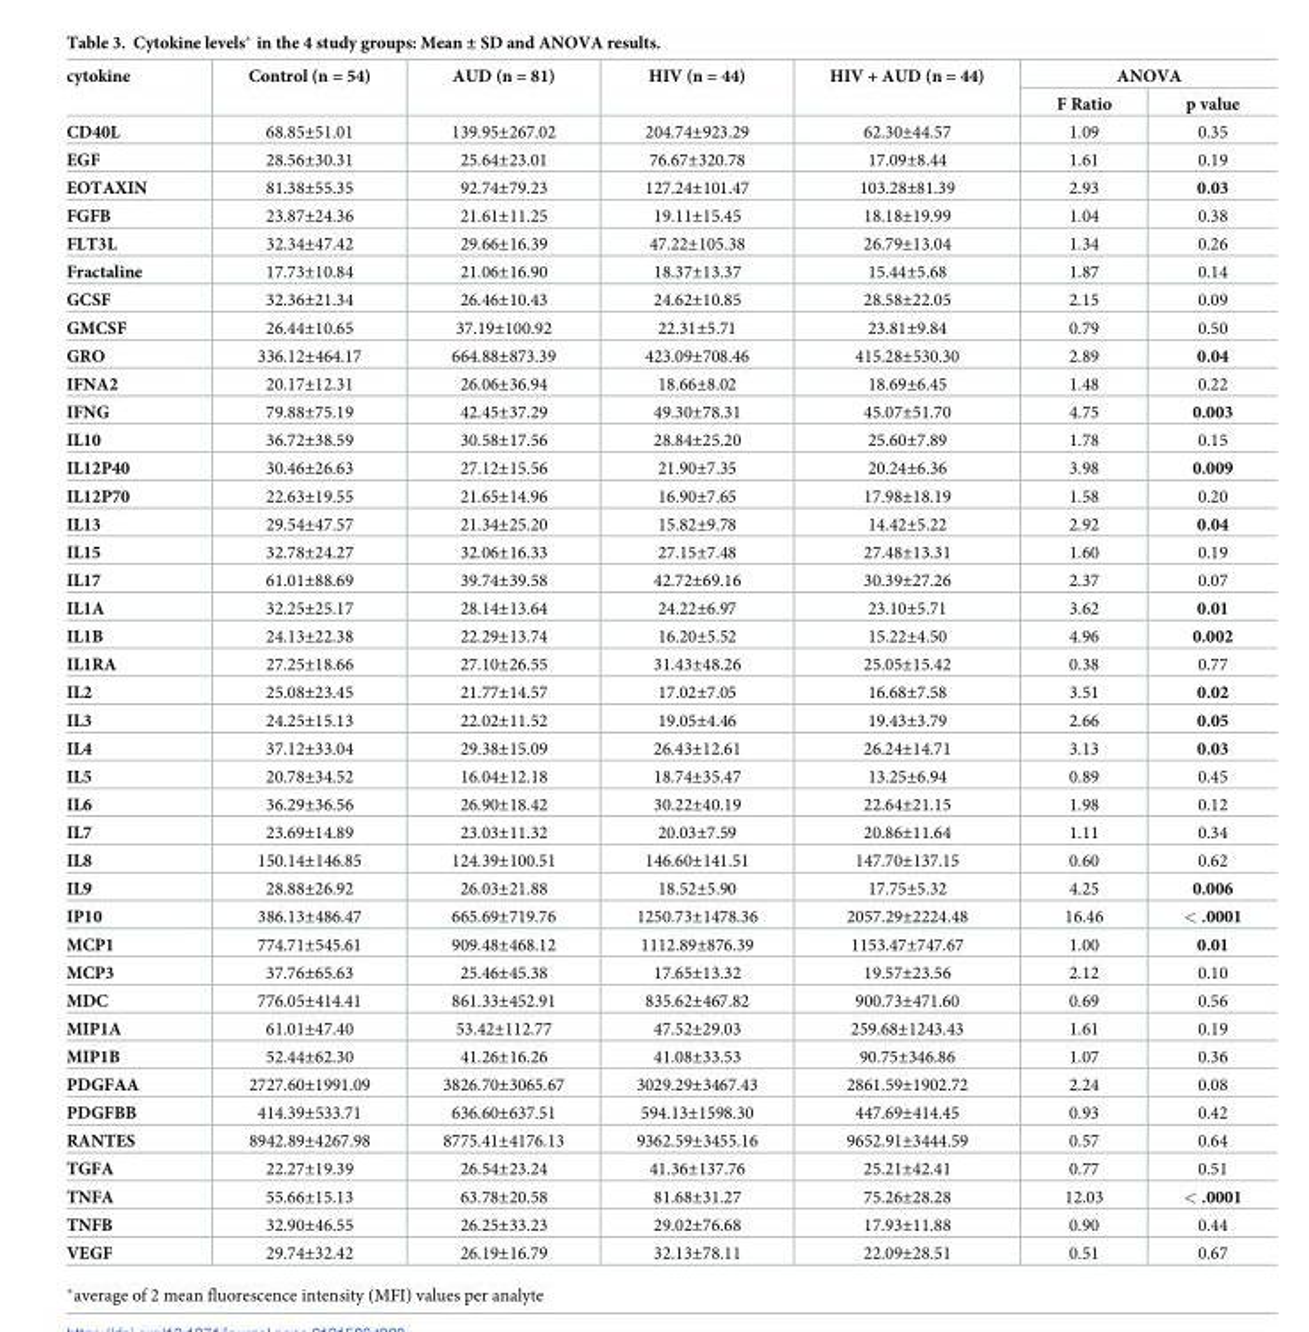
<table><thead><tr><td rowspan="2">cytokine</td><td rowspan="2">Control (n = 54)</td><td rowspan="2">AUD (n = 81)</td><td rowspan="2">HIV (n = 44)</td><td rowspan="2">HIV + AUD (n = 44)</td><td colspan="2">ANOVA</td></tr><tr><td>F Ratio</td><td>p value</td></tr></thead><tbody><tr><td>CD40L</td><td>68.85±51.01</td><td>139.95±267.02</td><td>204.74±923.29</td><td>62.30±44.57</td><td>1.09</td><td>0.35</td></tr><tr><td>EGF</td><td>28.56±30.31</td><td>25.64±23.01</td><td>76.67±320.78</td><td>17.09±8.44</td><td>1.61</td><td>0.19</td></tr><tr><td>EOTAXIN</td><td>81.38±55.35</td><td>92.74±79.23</td><td>127.24±101.47</td><td>103.28±81.39</td><td>2.93</td><td>0.03</td></tr><tr><td>FGFB</td><td>23.87±24.36</td><td>21.61±11.25</td><td>19.11±15.45</td><td>18.18±19.99</td><td>1.04</td><td>0.38</td></tr><tr><td>FLT3L</td><td>32.34±47.42</td><td>29.66±16.39</td><td>47.22±105.38</td><td>26.79±13.04</td><td>1.34</td><td>0.26</td></tr><tr><td>Fractaline</td><td>17.73±10.84</td><td>21.06±16.90</td><td>18.37±13.37</td><td>15.44±5.68</td><td>1.87</td><td>0.14</td></tr><tr><td>GCSF</td><td>32.36±21.34</td><td>26.46±10.43</td><td>24.62±10.85</td><td>28.58±22.05</td><td>2.15</td><td>0.09</td></tr><tr><td>GMCSF</td><td>26.44±10.65</td><td>37.19±100.92</td><td>22.31±5.71</td><td>23.81±9.84</td><td>0.79</td><td>0.50</td></tr><tr><td>GRO</td><td>336.12±464.17</td><td>664.88±873.39</td><td>423.09±708.46</td><td>415.28±530.30</td><td>2.89</td><td>0.04</td></tr><tr><td>IFNA2</td><td>20.17±12.31</td><td>26.06±36.94</td><td>18.66±8.02</td><td>18.69±6.45</td><td>1.48</td><td>0.22</td></tr><tr><td>IFNG</td><td>79.88±75.19</td><td>42.45±37.29</td><td>49.30±78.31</td><td>45.07±51.70</td><td>4.75</td><td>0.003</td></tr><tr><td>IL10</td><td>36.72±38.59</td><td>30.58±17.56</td><td>28.84±25.20</td><td>25.60±7.89</td><td>1.78</td><td>0.15</td></tr><tr><td>IL12P40</td><td>30.46±26.63</td><td>27.12±15.56</td><td>21.90±7.35</td><td>20.24±6.36</td><td>3.98</td><td>0.009</td></tr><tr><td>IL12P70</td><td>22.63±19.55</td><td>21.65±14.96</td><td>16.90±7.65</td><td>17.98±18.19</td><td>1.58</td><td>0.20</td></tr><tr><td>IL13</td><td>29.54±47.57</td><td>21.34±25.20</td><td>15.82±9.78</td><td>14.42±5.22</td><td>2.92</td><td>0.04</td></tr><tr><td>IL15</td><td>32.78±24.27</td><td>32.06±16.33</td><td>27.15±7.48</td><td>27.48±13.31</td><td>1.60</td><td>0.19</td></tr><tr><td>IL17</td><td>61.01±88.69</td><td>39.74±39.58</td><td>42.72±69.16</td><td>30.39±27.26</td><td>2.37</td><td>0.07</td></tr><tr><td>IL1A</td><td>32.25±25.17</td><td>28.14±13.64</td><td>24.22±6.97</td><td>23.10±5.71</td><td>3.62</td><td>0.01</td></tr><tr><td>IL1B</td><td>24.13±22.38</td><td>22.29±13.74</td><td>16.20±5.52</td><td>15.22±4.50</td><td>4.96</td><td>0.002</td></tr><tr><td>IL1RA</td><td>27.25±18.66</td><td>27.10±26.55</td><td>31.43±48.26</td><td>25.05±15.42</td><td>0.38</td><td>0.77</td></tr><tr><td>IL2</td><td>25.08±23.45</td><td>21.77±14.57</td><td>17.02±7.05</td><td>16.68±7.58</td><td>3.51</td><td>0.02</td></tr><tr><td>IL3</td><td>24.25±15.13</td><td>22.02±11.52</td><td>19.05±4.46</td><td>19.43±3.79</td><td>2.66</td><td>0.05</td></tr><tr><td>IL4</td><td>37.12±33.04</td><td>29.38±15.09</td><td>26.43±12.61</td><td>26.24±14.71</td><td>3.13</td><td>0.03</td></tr><tr><td>IL5</td><td>20.78±34.52</td><td>16.04±12.18</td><td>18.74±35.47</td><td>13.25±6.94</td><td>0.89</td><td>0.45</td></tr><tr><td>IL6</td><td>36.29±36.56</td><td>26.90±18.42</td><td>30.22±40.19</td><td>22.64±21.15</td><td>1.98</td><td>0.12</td></tr><tr><td>IL7</td><td>23.69±14.89</td><td>23.03±11.32</td><td>20.03±7.59</td><td>20.86±11.64</td><td>1.11</td><td>0.34</td></tr><tr><td>IL8</td><td>150.14±146.85</td><td>124.39±100.51</td><td>146.60±141.51</td><td>147.70±137.15</td><td>0.60</td><td>0.62</td></tr><tr><td>IL9</td><td>28.88±26.92</td><td>26.03±21.88</td><td>18.52±5.90</td><td>17.75±5.32</td><td>4.25</td><td>0.006</td></tr><tr><td>IP10</td><td>386.13±486.47</td><td>665.69±719.76</td><td>1250.73±1478.36</td><td>2057.29±2224.48</td><td>16.46</td><td>&lt; .0001</td></tr><tr><td>MCP1</td><td>774.71±545.61</td><td>909.48±468.12</td><td>1112.89±876.39</td><td>1153.47±747.67</td><td>1.00</td><td>0.01</td></tr><tr><td>MCP3</td><td>37.76±65.63</td><td>25.46±45.38</td><td>17.65±13.32</td><td>19.57±23.56</td><td>2.12</td><td>0.10</td></tr><tr><td>MDC</td><td>776.05±414.41</td><td>861.33±452.91</td><td>835.62±467.82</td><td>900.73±471.60</td><td>0.69</td><td>0.56</td></tr><tr><td>MIP1A</td><td>61.01±47.40</td><td>53.42±112.77</td><td>47.52±29.03</td><td>259.68±1243.43</td><td>1.61</td><td>0.19</td></tr><tr><td>MIP1B</td><td>52.44±62.30</td><td>41.26±16.26</td><td>41.08±33.53</td><td>90.75±346.86</td><td>1.07</td><td>0.36</td></tr><tr><td>PDGFAA</td><td>2727.60±1991.09</td><td>3826.70±3065.67</td><td>3029.29±3467.43</td><td>2861.59±1902.72</td><td>2.24</td><td>0.08</td></tr><tr><td>PDGFBB</td><td>414.39±533.71</td><td>636.60±637.51</td><td>594.13±1598.30</td><td>447.69±414.45</td><td>0.93</td><td>0.42</td></tr><tr><td>RANTES</td><td>8942.89±4267.98</td><td>8775.41±4176.13</td><td>9362.59±3455.16</td><td>9652.91±3444.59</td><td>0.57</td><td>0.64</td></tr><tr><td>TGFA</td><td>22.27±19.39</td><td>26.54±23.24</td><td>41.36±137.76</td><td>25.21±42.41</td><td>0.77</td><td>0.51</td></tr><tr><td>TNFA</td><td>55.66±15.13</td><td>63.78±20.58</td><td>81.68±31.27</td><td>75.26±28.28</td><td>12.03</td><td>&lt; .0001</td></tr><tr><td>TNFB</td><td>32.90±46.55</td><td>26.25±33.23</td><td>29.02±76.68</td><td>17.93±11.88</td><td>0.90</td><td>0.44</td></tr><tr><td>VEGF</td><td>29.74±32.42</td><td>26.19±16.79</td><td>32.13±78.11</td><td>22.09±28.51</td><td>0.51</td><td>0.67</td></tr></tbody></table>